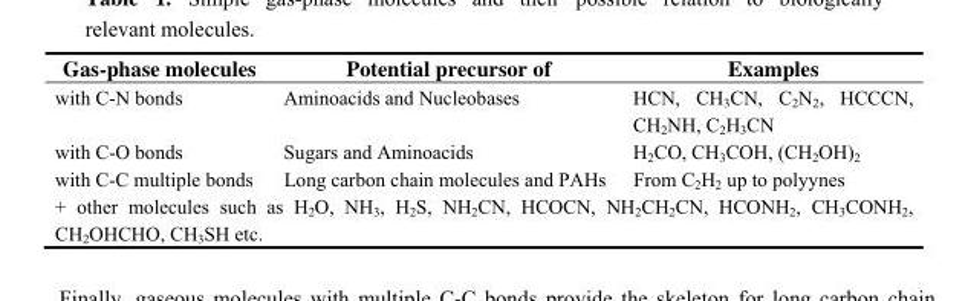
<table><thead><tr><td>Gas-phase molecules</td><td>Potential precursor of</td><td>Examples</td></tr></thead><tbody><tr><td>with C-N bonds</td><td>Aminoacids and Nucleobases</td><td>HCN, CH<sub>3</sub>CN, C<sub>2</sub>N<sub>2</sub>, HCCCN, CH<sub>2</sub>NH, C<sub>2</sub>H<sub>3</sub>CN</td></tr><tr><td>with C-O bonds</td><td>Sugars and Aminoacids</td><td>H<sub>2</sub>CO, CH<sub>3</sub>COH, (CH<sub>2</sub>OH)<sub>2</sub></td></tr><tr><td>with C-C multiple bonds</td><td>Long carbon chain molecules and PAHs</td><td>From C<sub>2</sub>H<sub>2</sub> up to polyynes</td></tr><tr><td colspan="3">+ other molecules such as H<sub>2</sub>O, NH<sub>3</sub>, H<sub>2</sub>S, NH<sub>2</sub>CN, HCOCN, NH<sub>2</sub>CH<sub>2</sub>CN, HCONH<sub>2</sub>, CH<sub>3</sub>CONH<sub>2</sub>, CH<sub>2</sub>OHCHO, CH<sub>3</sub>SH etc.</td></tr></tbody></table>